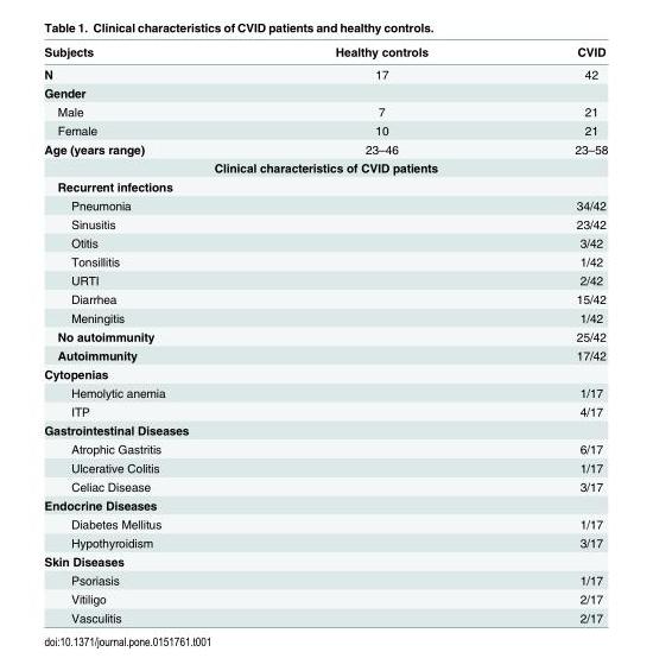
<table><thead><tr><td>Subjects</td><td>Healthy controls</td><td>CVID</td></tr></thead><tbody><tr><td>N</td><td>17</td><td>42</td></tr><tr><td colspan="3">Gender</td></tr><tr><td>Male</td><td>7</td><td>21</td></tr><tr><td>Female</td><td>10</td><td>21</td></tr><tr><td>Age (years range)</td><td>23–46</td><td>23–58</td></tr><tr><td colspan="3">Clinical characteristics of CVID patients</td></tr><tr><td colspan="3">Recurrent infections</td></tr><tr><td>Pneumonia</td><td></td><td>34/42</td></tr><tr><td>Sinusitis</td><td></td><td>23/42</td></tr><tr><td>Otitis</td><td></td><td>3/42</td></tr><tr><td>Tonsillitis</td><td></td><td>1/42</td></tr><tr><td>URTI</td><td></td><td>2/42</td></tr><tr><td>Diarrhea</td><td></td><td>15/42</td></tr><tr><td>Meningitis</td><td></td><td>1/42</td></tr><tr><td>No autoimmunity</td><td></td><td>25/42</td></tr><tr><td>Autoimmunity</td><td></td><td>17/42</td></tr><tr><td colspan="3">Cytopenias</td></tr><tr><td>Hemolytic anemia</td><td></td><td>1/17</td></tr><tr><td>ITP</td><td></td><td>4/17</td></tr><tr><td colspan="3">Gastrointestinal Diseases</td></tr><tr><td>Atrophic Gastritis</td><td></td><td>6/17</td></tr><tr><td>Ulcerative Colitis</td><td></td><td>1/17</td></tr><tr><td>Celiac Disease</td><td></td><td>3/17</td></tr><tr><td colspan="3">Endocrine Diseases</td></tr><tr><td>Diabetes Mellitus</td><td></td><td>1/17</td></tr><tr><td>Hypothyroidism</td><td></td><td>3/17</td></tr><tr><td colspan="3">Skin Diseases</td></tr><tr><td>Psoriasis</td><td></td><td>1/17</td></tr><tr><td>Vitiligo</td><td></td><td>2/17</td></tr><tr><td>Vasculitis</td><td></td><td>2/17</td></tr></tbody></table>